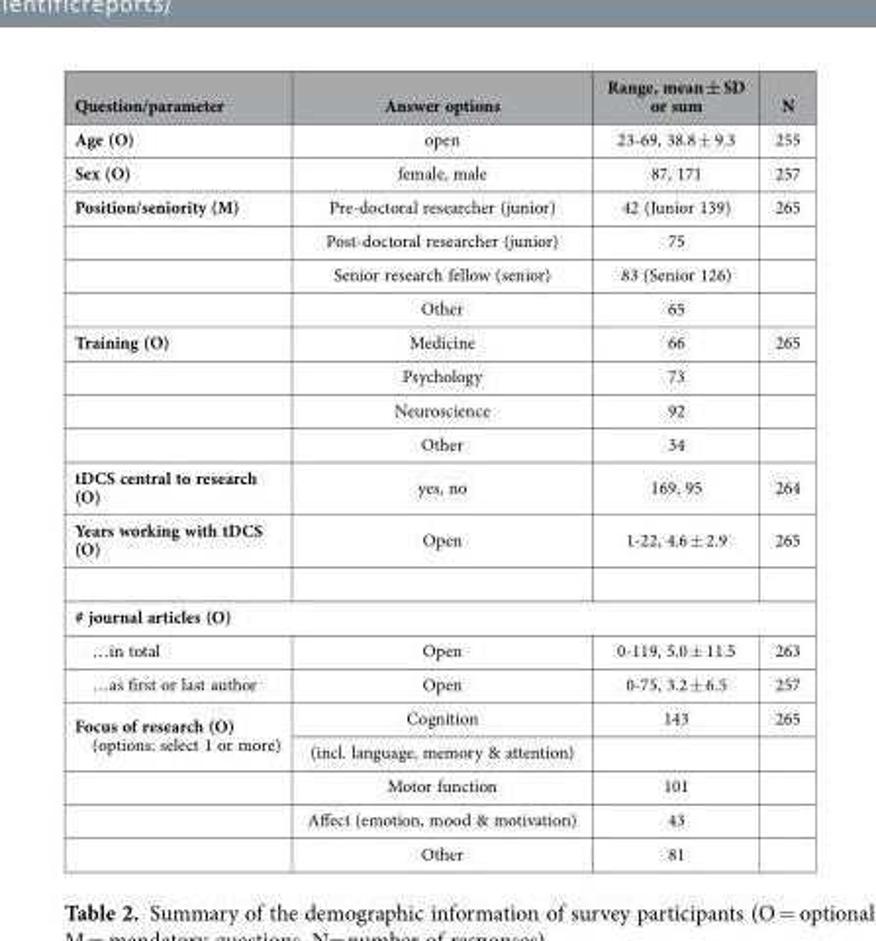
<table><thead><tr><td>Question/parameter</td><td>Answer options</td><td>Range, mean ± SD or sum</td><td>N</td></tr></thead><tbody><tr><td>Age (O)</td><td>open</td><td>23-69, 38.8 ± 9.3</td><td>255</td></tr><tr><td>Sex (O)</td><td>female, male</td><td>87, 171</td><td>257</td></tr><tr><td rowspan="4">Position/seniority (M)</td><td>Pre-doctoral researcher (junior)</td><td>42 (Junior 139)</td><td>265</td></tr><tr><td>Post-doctoral researcher (junior)</td><td>75</td><td></td></tr><tr><td>Senior research fellow (senior)</td><td>83 (Senior 126)</td><td></td></tr><tr><td>Other</td><td>65</td><td></td></tr><tr><td rowspan="4">Training (O)</td><td>Medicine</td><td>66</td><td>265</td></tr><tr><td>Psychology</td><td>73</td><td></td></tr><tr><td>Neuroscience</td><td>92</td><td></td></tr><tr><td>Other</td><td>34</td><td></td></tr><tr><td>tDCS central to research (O)</td><td>yes, no</td><td>169, 95</td><td>264</td></tr><tr><td>Years working with tDCS (O)</td><td>Open</td><td>1-22, 4.6 ± 2.9</td><td>265</td></tr><tr><td colspan="4"># journal articles (O)</td></tr><tr><td>…in total</td><td>Open</td><td>0-119, 5.0 ± 11.5</td><td>263</td></tr><tr><td>…as first or last author</td><td>Open</td><td>0-75, 3.2 ± 6.5</td><td>257</td></tr><tr><td rowspan="5">Focus of research (O) (options: select 1 or more)</td><td>Cognition</td><td>143</td><td>265</td></tr><tr><td>(incl. language, memory &amp; attention)</td><td></td><td></td></tr><tr><td>Motor function</td><td>101</td><td></td></tr><tr><td>Affect (emotion, mood &amp; motivation)</td><td>43</td><td></td></tr><tr><td>Other</td><td>81</td><td></td></tr></tbody></table>